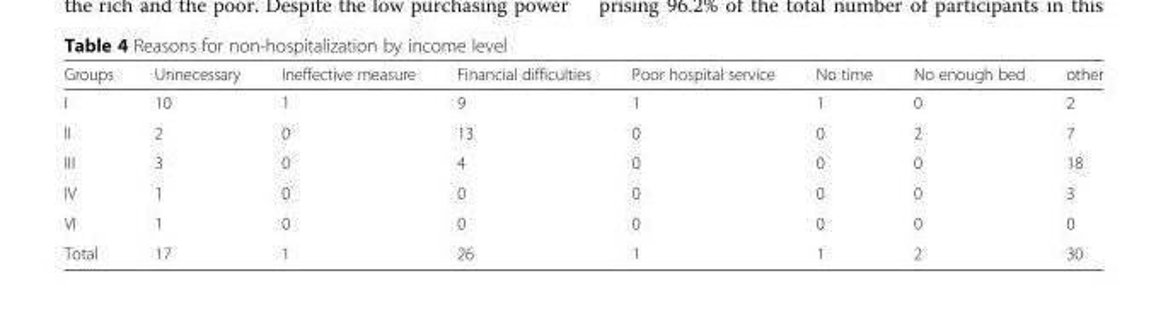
<table><thead><tr><td>Groups</td><td>Unnecessary</td><td>Ineffective measure</td><td>Financial difficulties</td><td>Poor hospital service</td><td>No time</td><td>No enough bed</td><td>other</td></tr></thead><tbody><tr><td>I</td><td>10</td><td>1</td><td>9</td><td>1</td><td>1</td><td>0</td><td>2</td></tr><tr><td>II</td><td>2</td><td>0</td><td>13</td><td>0</td><td>0</td><td>2</td><td>7</td></tr><tr><td>III</td><td>3</td><td>0</td><td>4</td><td>0</td><td>0</td><td>0</td><td>18</td></tr><tr><td>IV</td><td>1</td><td>0</td><td>0</td><td>0</td><td>0</td><td>0</td><td>3</td></tr><tr><td>VI</td><td>1</td><td>0</td><td>0</td><td>0</td><td>0</td><td>0</td><td>0</td></tr><tr><td>Total</td><td>17</td><td>1</td><td>26</td><td>1</td><td>1</td><td>2</td><td>30</td></tr></tbody></table>